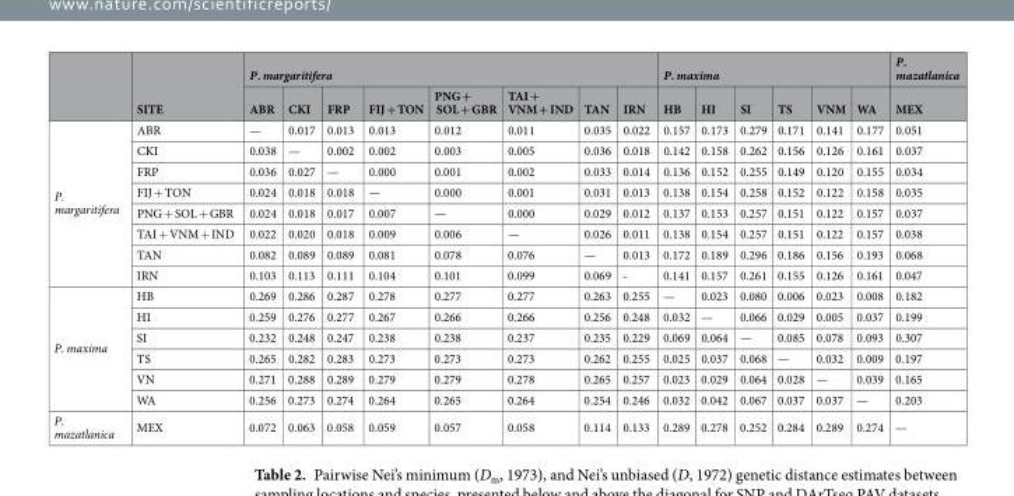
<table><thead><tr><td rowspan="2"></td><td rowspan="2">SITE</td><td colspan="8">P. margaritifera</td><td colspan="6">P. maxima</td><td rowspan="2">P. mazatlanica MEX</td></tr><tr><td>ABR</td><td>CKI</td><td>FRP</td><td>FIJ + TON</td><td>PNG + SOL + GBR</td><td>TAI + VNM + IND</td><td>TAN</td><td>IRN</td><td>HB</td><td>HI</td><td>SI</td><td>TS</td><td>VNM</td><td>WA</td></tr></thead><tbody><tr><td rowspan="8">P. margaritifera</td><td>ABR</td><td>—</td><td>0.017</td><td>0.013</td><td>0.013</td><td>0.012</td><td>0.011</td><td>0.035</td><td>0.022</td><td>0.157</td><td>0.173</td><td>0.279</td><td>0.171</td><td>0.141</td><td>0.177</td><td>0.051</td></tr><tr><td>CKI</td><td>0.038</td><td>—</td><td>0.002</td><td>0.002</td><td>0.003</td><td>0.005</td><td>0.036</td><td>0.018</td><td>0.142</td><td>0.158</td><td>0.262</td><td>0.156</td><td>0.126</td><td>0.161</td><td>0.037</td></tr><tr><td>FRP</td><td>0.036</td><td>0.027</td><td>—</td><td>0.000</td><td>0.001</td><td>0.002</td><td>0.033</td><td>0.014</td><td>0.136</td><td>0.152</td><td>0.255</td><td>0.149</td><td>0.120</td><td>0.155</td><td>0.034</td></tr><tr><td>FIJ + TON</td><td>0.024</td><td>0.018</td><td>0.018</td><td>—</td><td>0.000</td><td>0.001</td><td>0.031</td><td>0.013</td><td>0.138</td><td>0.154</td><td>0.258</td><td>0.152</td><td>0.122</td><td>0.158</td><td>0.035</td></tr><tr><td>PNG + SOL + GBR</td><td>0.024</td><td>0.018</td><td>0.017</td><td>0.007</td><td>—</td><td>0.000</td><td>0.029</td><td>0.012</td><td>0.137</td><td>0.153</td><td>0.257</td><td>0.151</td><td>0.122</td><td>0.157</td><td>0.037</td></tr><tr><td>TAI + VNM + IND</td><td>0.022</td><td>0.020</td><td>0.018</td><td>0.009</td><td>0.006</td><td>—</td><td>0.026</td><td>0.011</td><td>0.138</td><td>0.154</td><td>0.257</td><td>0.151</td><td>0.122</td><td>0.157</td><td>0.038</td></tr><tr><td>TAN</td><td>0.082</td><td>0.089</td><td>0.089</td><td>0.081</td><td>0.078</td><td>0.076</td><td>—</td><td>0.013</td><td>0.172</td><td>0.189</td><td>0.296</td><td>0.186</td><td>0.156</td><td>0.193</td><td>0.068</td></tr><tr><td>IRN</td><td>0.103</td><td>0.113</td><td>0.111</td><td>0.104</td><td>0.101</td><td>0.099</td><td>0.069</td><td>-</td><td>0.141</td><td>0.157</td><td>0.261</td><td>0.155</td><td>0.126</td><td>0.161</td><td>0.047</td></tr><tr><td rowspan="6">P. maxima</td><td>HB</td><td>0.269</td><td>0.286</td><td>0.287</td><td>0.278</td><td>0.277</td><td>0.277</td><td>0.263</td><td>0.255</td><td>—</td><td>0.023</td><td>0.080</td><td>0.006</td><td>0.023</td><td>0.008</td><td>0.182</td></tr><tr><td>HI</td><td>0.259</td><td>0.276</td><td>0.277</td><td>0.267</td><td>0.266</td><td>0.266</td><td>0.256</td><td>0.248</td><td>0.032</td><td>—</td><td>0.066</td><td>0.029</td><td>0.005</td><td>0.037</td><td>0.199</td></tr><tr><td>SI</td><td>0.232</td><td>0.248</td><td>0.247</td><td>0.238</td><td>0.238</td><td>0.237</td><td>0.235</td><td>0.229</td><td>0.069</td><td>0.064</td><td>—</td><td>0.085</td><td>0.078</td><td>0.093</td><td>0.307</td></tr><tr><td>TS</td><td>0.265</td><td>0.282</td><td>0.283</td><td>0.273</td><td>0.273</td><td>0.273</td><td>0.262</td><td>0.255</td><td>0.025</td><td>0.037</td><td>0.068</td><td>—</td><td>0.032</td><td>0.009</td><td>0.197</td></tr><tr><td>VN</td><td>0.271</td><td>0.288</td><td>0.289</td><td>0.279</td><td>0.279</td><td>0.278</td><td>0.265</td><td>0.257</td><td>0.023</td><td>0.029</td><td>0.064</td><td>0.028</td><td>—</td><td>0.039</td><td>0.165</td></tr><tr><td>WA</td><td>0.256</td><td>0.273</td><td>0.274</td><td>0.264</td><td>0.265</td><td>0.264</td><td>0.254</td><td>0.246</td><td>0.032</td><td>0.042</td><td>0.067</td><td>0.037</td><td>0.037</td><td>—</td><td>0.203</td></tr><tr><td>P. mazatlanica</td><td>MEX</td><td>0.072</td><td>0.063</td><td>0.058</td><td>0.059</td><td>0.057</td><td>0.058</td><td>0.114</td><td>0.133</td><td>0.289</td><td>0.278</td><td>0.252</td><td>0.284</td><td>0.289</td><td>0.274</td><td>—</td></tr></tbody></table>